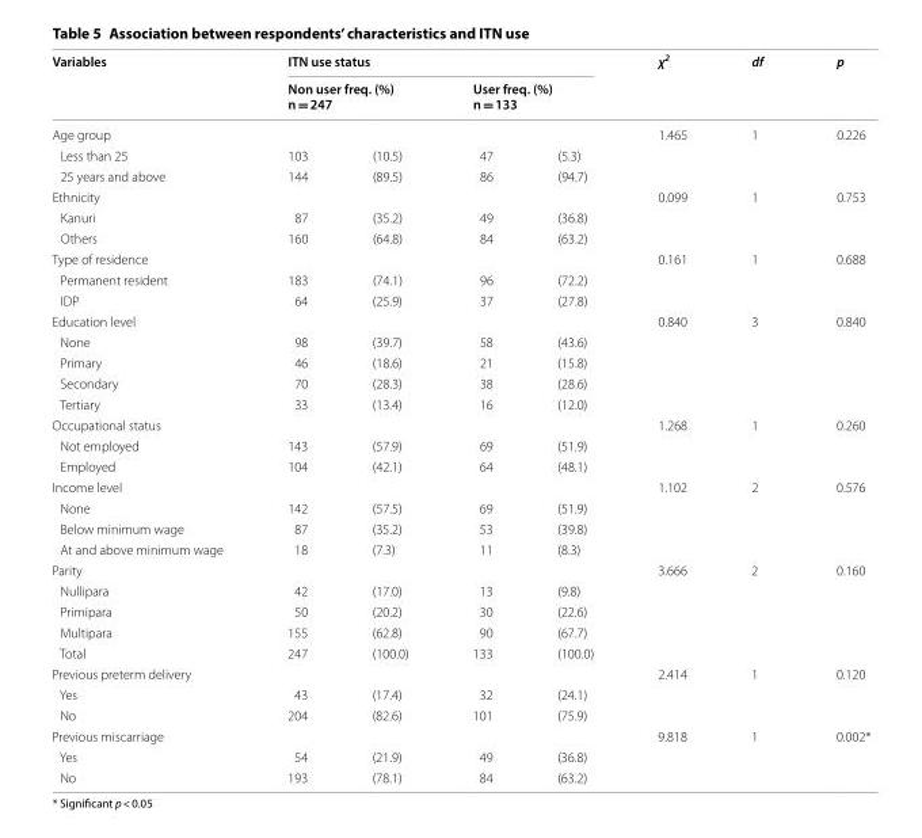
<table><thead><tr><td rowspan="2">Variables</td><td colspan="4">ITN use status</td><td rowspan="4">χ<sup>2</sup> 1.465</td><td rowspan="4">df 1</td><td rowspan="4">p 0.226</td></tr><tr><td colspan="2">Non user freq. (%) n = 247</td><td colspan="2">User freq. (%) n = 133</td></tr><tr><td colspan="5">Age group</td></tr><tr><td>Less than 25</td><td>103</td><td>(10.5)</td><td>47</td><td>(5.3)</td></tr></thead><tbody><tr><td>25 years and above</td><td>144</td><td>(89.5)</td><td>86</td><td>(94.7)</td><td></td><td></td><td></td></tr><tr><td colspan="5">Ethnicity</td><td>0.099</td><td>1</td><td>0.753</td></tr><tr><td>Kanuri</td><td>87</td><td>(35.2)</td><td>49</td><td>(36.8)</td><td></td><td></td><td></td></tr><tr><td>Others</td><td>160</td><td>(64.8)</td><td>84</td><td>(63.2)</td><td></td><td></td><td></td></tr><tr><td colspan="5">Type of residence</td><td>0.161</td><td>1</td><td>0.688</td></tr><tr><td>Permanent resident</td><td>183</td><td>(74.1)</td><td>96</td><td>(72.2)</td><td></td><td></td><td></td></tr><tr><td>IDP</td><td>64</td><td>(25.9)</td><td>37</td><td>(27.8)</td><td></td><td></td><td></td></tr><tr><td colspan="5">Education level</td><td>0.840</td><td>3</td><td>0.840</td></tr><tr><td>None</td><td>98</td><td>(39.7)</td><td>58</td><td>(43.6)</td><td></td><td></td><td></td></tr><tr><td>Primary</td><td>46</td><td>(18.6)</td><td>21</td><td>(15.8)</td><td></td><td></td><td></td></tr><tr><td>Secondary</td><td>70</td><td>(28.3)</td><td>38</td><td>(28.6)</td><td></td><td></td><td></td></tr><tr><td>Tertiary</td><td>33</td><td>(13.4)</td><td>16</td><td>(12.0)</td><td></td><td></td><td></td></tr><tr><td colspan="5">Occupational status</td><td>1.268</td><td>1</td><td>0.260</td></tr><tr><td>Not employed</td><td>143</td><td>(57.9)</td><td>69</td><td>(51.9)</td><td></td><td></td><td></td></tr><tr><td>Employed</td><td>104</td><td>(42.1)</td><td>64</td><td>(48.1)</td><td></td><td></td><td></td></tr><tr><td colspan="5">Income level</td><td>1.102</td><td>2</td><td>0.576</td></tr><tr><td>None</td><td>142</td><td>(57.5)</td><td>69</td><td>(51.9)</td><td></td><td></td><td></td></tr><tr><td>Below minimum wage</td><td>87</td><td>(35.2)</td><td>53</td><td>(39.8)</td><td></td><td></td><td></td></tr><tr><td>At and above minimum wage</td><td>18</td><td>(7.3)</td><td>11</td><td>(8.3)</td><td></td><td></td><td></td></tr><tr><td colspan="5">Parity</td><td>3.666</td><td>2</td><td>0.160</td></tr><tr><td>Nullipara</td><td>42</td><td>(17.0)</td><td>13</td><td>(9.8)</td><td></td><td></td><td></td></tr><tr><td>Primipara</td><td>50</td><td>(20.2)</td><td>30</td><td>(22.6)</td><td></td><td></td><td></td></tr><tr><td>Multipara</td><td>155</td><td>(62.8)</td><td>90</td><td>(67.7)</td><td></td><td></td><td></td></tr><tr><td>Total</td><td>247</td><td>(100.0)</td><td>133</td><td>(100.0)</td><td></td><td></td><td></td></tr><tr><td colspan="5">Previous preterm delivery</td><td>2.414</td><td>1</td><td>0.120</td></tr><tr><td>Yes</td><td>43</td><td>(17.4)</td><td>32</td><td>(24.1)</td><td></td><td></td><td></td></tr><tr><td>No</td><td>204</td><td>(82.6)</td><td>101</td><td>(75.9)</td><td></td><td></td><td></td></tr><tr><td colspan="5">Previous miscarriage</td><td>9.818</td><td>1</td><td>0.002*</td></tr><tr><td>Yes</td><td>54</td><td>(21.9)</td><td>49</td><td>(36.8)</td><td></td><td></td><td></td></tr><tr><td>No</td><td>193</td><td>(78.1)</td><td>84</td><td>(63.2)</td><td></td><td></td><td></td></tr></tbody></table>